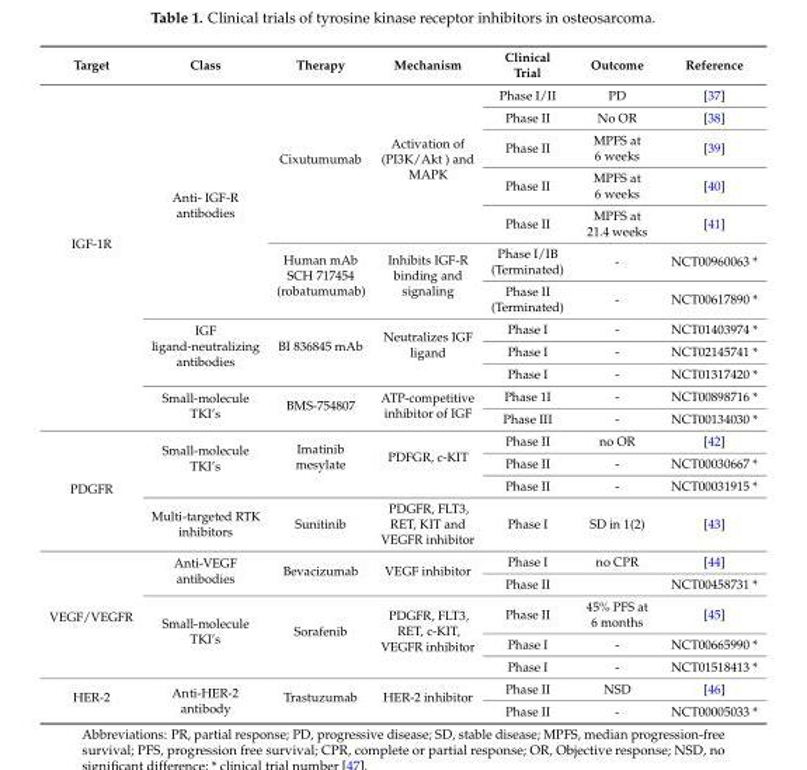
<table><thead><tr><td>Target</td><td>Class</td><td>Therapy</td><td>Mechanism</td><td>Clinical Trial</td><td>Outcome</td><td>Reference</td></tr></thead><tbody><tr><td rowspan="12">IGF-1R</td><td rowspan="7">Anti- IGF-R antibodies</td><td rowspan="5">Cixutumumab</td><td rowspan="5">Activation of (PI3K/Akt ) and MAPK</td><td>Phase I/II</td><td>PD</td><td>[37]</td></tr><tr><td>Phase II</td><td>No OR</td><td>[38]</td></tr><tr><td>Phase II</td><td>MPFS at 6 weeks</td><td>[39]</td></tr><tr><td>Phase II</td><td>MPFS at 6 weeks</td><td>[40]</td></tr><tr><td>Phase II</td><td>MPFS at 21.4 weeks</td><td>[41]</td></tr><tr><td rowspan="2">Human mAb SCH 717454 (robatumumab)</td><td rowspan="2">Inhibits IGF-R binding and signaling</td><td>Phase I/IB (Terminated)</td><td>-</td><td>NCT00960063 *</td></tr><tr><td>Phase II (Terminated)</td><td>-</td><td>NCT00617890 *</td></tr><tr><td rowspan="3">IGF ligand-neutralizing antibodies</td><td rowspan="3">BI 836845 mAb</td><td rowspan="3">Neutralizes IGF ligand</td><td>Phase I</td><td>-</td><td>NCT01403974 *</td></tr><tr><td>Phase I</td><td>-</td><td>NCT02145741 *</td></tr><tr><td>Phase I</td><td>-</td><td>NCT01317420 *</td></tr><tr><td rowspan="2">Small-molecule TKI’s</td><td rowspan="2">BMS-754807</td><td rowspan="2">ATP-competitive inhibitor of IGF</td><td>Phase 1I</td><td>-</td><td>NCT00898716 *</td></tr><tr><td>Phase III</td><td>-</td><td>NCT00134030 *</td></tr><tr><td rowspan="4">PDGFR</td><td rowspan="3">Small-molecule TKI’s</td><td rowspan="3">Imatinib mesylate</td><td rowspan="3">PDFGR, c-KIT</td><td>Phase II</td><td>no OR</td><td>[42]</td></tr><tr><td>Phase II</td><td>-</td><td>NCT00030667 *</td></tr><tr><td>Phase II</td><td>-</td><td>NCT00031915 *</td></tr><tr><td>Multi-targeted RTK inhibitors</td><td>Sunitinib</td><td>PDGFR, FLT3, RET, KIT and VEGFR inhibitor</td><td>Phase I</td><td>SD in 1(2)</td><td>[43]</td></tr><tr><td rowspan="5">VEGF/VEGFR</td><td rowspan="2">Anti-VEGF antibodies</td><td rowspan="2">Bevacizumab</td><td rowspan="2">VEGF inhibitor</td><td>Phase I</td><td>no CPR</td><td>[44]</td></tr><tr><td>Phase II</td><td></td><td>NCT00458731 *</td></tr><tr><td rowspan="3">Small-molecule TKI’s</td><td rowspan="3">Sorafenib</td><td rowspan="3">PDGFR, FLT3, RET, c-KIT, VEGFR inhibitor</td><td>Phase II</td><td>45% PFS at 6 months</td><td>[45]</td></tr><tr><td>Phase I</td><td>-</td><td>NCT00665990 *</td></tr><tr><td>Phase I</td><td>-</td><td>NCT01518413 *</td></tr><tr><td rowspan="2">HER-2</td><td rowspan="2">Anti-HER-2 antibody</td><td rowspan="2">Trastuzumab</td><td rowspan="2">HER-2 inhibitor</td><td>Phase II</td><td>NSD</td><td>[46]</td></tr><tr><td>Phase II</td><td>-</td><td>NCT00005033 *</td></tr></tbody></table>